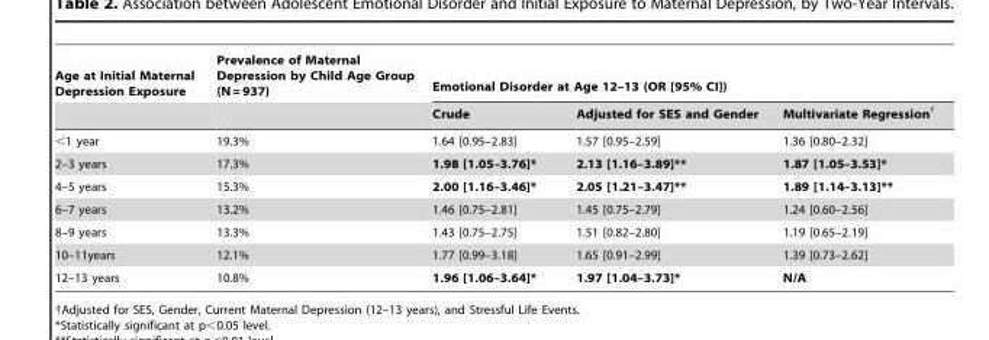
<table><thead><tr><td rowspan="2">Age at Initial Maternal Depression Exposure</td><td rowspan="2">Prevalence of Maternal Depression by Child Age Group (N = 937)</td><td colspan="3">Emotional Disorder at Age 12–13 (OR [95% CI])</td></tr><tr><td>Crude</td><td>Adjusted for SES and Gender</td><td>Multivariate Regression†</td></tr></thead><tbody><tr><td>&lt;1 year</td><td>19.3%</td><td>1.64 [0.95–2.83]</td><td>1.57 [0.95–2.59]</td><td>1.36 [0.80–2.32]</td></tr><tr><td>2–3 years</td><td>17.3%</td><td>1.98 [1.05–3.76]*</td><td>2.13 [1.16–3.89]**</td><td>1.87 [1.05–3.53]*</td></tr><tr><td>4–5 years</td><td>15.3%</td><td>2.00 [1.16–3.46]*</td><td>2.05 [1.21–3.47]**</td><td>1.89 [1.14–3.13]**</td></tr><tr><td>6–7 years</td><td>13.2%</td><td>1.46 [0.75–2.81]</td><td>1.45 [0.75–2.79]</td><td>1.24 [0.60–2.56]</td></tr><tr><td>8–9 years</td><td>13.3%</td><td>1.43 [0.75–2.75]</td><td>1.51 [0.82–2.80]</td><td>1.19 [0.65–2.19]</td></tr><tr><td>10–11years</td><td>12.1%</td><td>1.77 [0.99–3.18]</td><td>1.65 [0.91–2.99]</td><td>1.39 [0.73–2.62]</td></tr><tr><td>12–13 years</td><td>10.8%</td><td>1.96 [1.06–3.64]*</td><td>1.97 [1.04–3.73]*</td><td>N/A</td></tr></tbody></table>